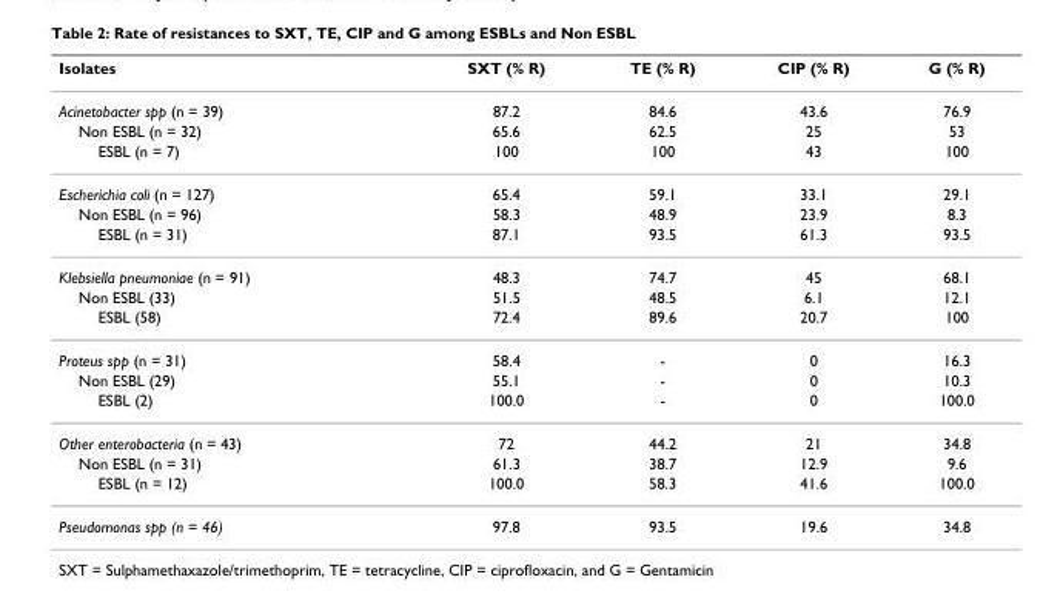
<table><thead><tr><td>Isolates</td><td>SXT (% R)</td><td>TE (% R)</td><td>CIP (% R)</td><td>G (% R)</td></tr></thead><tbody><tr><td>Acinetobacter spp (n = 39)</td><td>87.2</td><td>84.6</td><td>43.6</td><td>76.9</td></tr><tr><td>Non ESBL (n = 32)</td><td>65.6</td><td>62.5</td><td>25</td><td>53</td></tr><tr><td>ESBL (n = 7)</td><td>100</td><td>100</td><td>43</td><td>100</td></tr><tr><td>Escherichia coli (n = 127)</td><td>65.4</td><td>59.1</td><td>33.1</td><td>29.1</td></tr><tr><td>Non ESBL (n = 96)</td><td>58.3</td><td>48.9</td><td>23.9</td><td>8.3</td></tr><tr><td>ESBL (n = 31)</td><td>87.1</td><td>93.5</td><td>61.3</td><td>93.5</td></tr><tr><td>Klebsiella pneumoniae (n = 91)</td><td>48.3</td><td>74.7</td><td>45</td><td>68.1</td></tr><tr><td>Non ESBL (33)</td><td>51.5</td><td>48.5</td><td>6.1</td><td>12.1</td></tr><tr><td>ESBL (58)</td><td>72.4</td><td>89.6</td><td>20.7</td><td>100</td></tr><tr><td>Proteus spp (n = 31)</td><td>58.4</td><td>-</td><td>0</td><td>16.3</td></tr><tr><td>Non ESBL (29)</td><td>55.1</td><td>-</td><td>0</td><td>10.3</td></tr><tr><td>ESBL (2)</td><td>100.0</td><td>-</td><td>0</td><td>100.0</td></tr><tr><td>Other enterobacteria (n = 43)</td><td>72</td><td>44.2</td><td>21</td><td>34.8</td></tr><tr><td>Non ESBL (n = 31)</td><td>61.3</td><td>38.7</td><td>12.9</td><td>9.6</td></tr><tr><td>ESBL (n = 12)</td><td>100.0</td><td>58.3</td><td>41.6</td><td>100.0</td></tr><tr><td>Pseudomonas spp (n = 46)</td><td>97.8</td><td>93.5</td><td>19.6</td><td>34.8</td></tr></tbody></table>